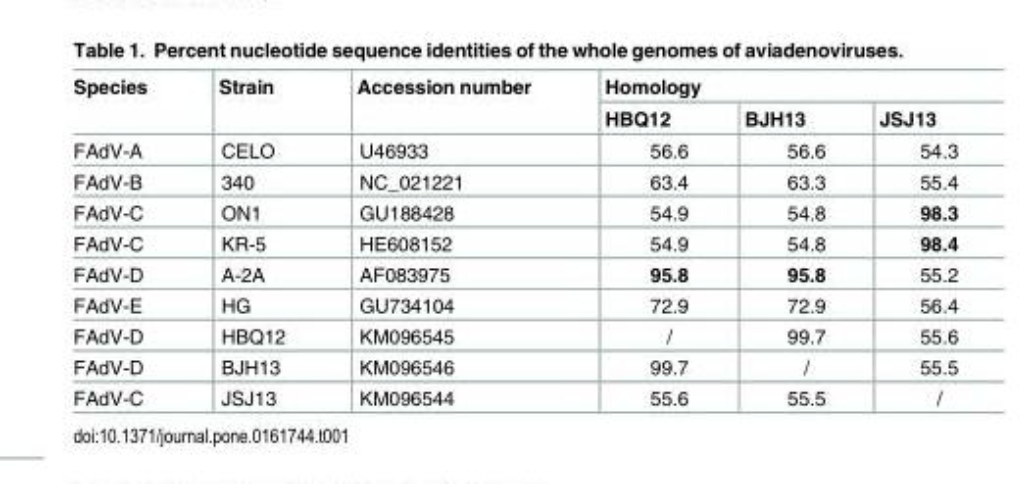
<table><thead><tr><td rowspan="2">Species</td><td rowspan="2">Strain</td><td rowspan="2">Accession number</td><td colspan="3">Homology</td></tr><tr><td>HBQ12</td><td>BJH13</td><td>JSJ13</td></tr></thead><tbody><tr><td>FAdV-A</td><td>CELO</td><td>U46933</td><td>56.6</td><td>56.6</td><td>54.3</td></tr><tr><td>FAdV-B</td><td>340</td><td>NC_021221</td><td>63.4</td><td>63.3</td><td>55.4</td></tr><tr><td>FAdV-C</td><td>ON1</td><td>GU188428</td><td>54.9</td><td>54.8</td><td>98.3</td></tr><tr><td>FAdV-C</td><td>KR-5</td><td>HE608152</td><td>54.9</td><td>54.8</td><td>98.4</td></tr><tr><td>FAdV-D</td><td>A-2A</td><td>AF083975</td><td>95.8</td><td>95.8</td><td>55.2</td></tr><tr><td>FAdV-E</td><td>HG</td><td>GU734104</td><td>72.9</td><td>72.9</td><td>56.4</td></tr><tr><td>FAdV-D</td><td>HBQ12</td><td>KM096545</td><td>/</td><td>99.7</td><td>55.6</td></tr><tr><td>FAdV-D</td><td>BJH13</td><td>KM096546</td><td>99.7</td><td>/</td><td>55.5</td></tr><tr><td>FAdV-C</td><td>JSJ13</td><td>KM096544</td><td>55.6</td><td>55.5</td><td>/</td></tr></tbody></table>